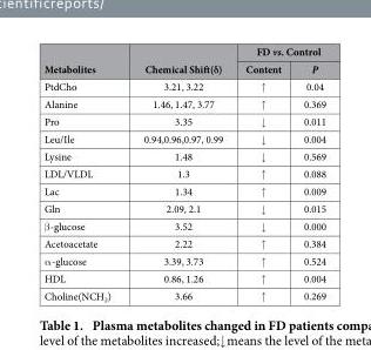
<table><thead><tr><td rowspan="2">Metabolites</td><td rowspan="2">Chemical Shift(δ)</td><td colspan="2">FD vs. Control</td></tr><tr><td>Content</td><td>P</td></tr></thead><tbody><tr><td>PtdCho</td><td>3.21, 3.22</td><td>↑</td><td>0.04</td></tr><tr><td>Alanine</td><td>1.46, 1.47, 3.77</td><td>↑</td><td>0.369</td></tr><tr><td>Pro</td><td>3.35</td><td>↓</td><td>0.011</td></tr><tr><td>Leu/Ile</td><td>0.94,0.96,0.97, 0.99</td><td>↓</td><td>0.004</td></tr><tr><td>Lysine</td><td>1.48</td><td>↓</td><td>0.569</td></tr><tr><td>LDL/VLDL</td><td>1.3</td><td>↑</td><td>0.088</td></tr><tr><td>Lac</td><td>1.34</td><td>↑</td><td>0.009</td></tr><tr><td>Gln</td><td>2.09, 2.1</td><td>↓</td><td>0.015</td></tr><tr><td>β -glucose</td><td>3.52</td><td>↓</td><td>0.000</td></tr><tr><td>Acetoacetate</td><td>2.22</td><td>↑</td><td>0.384</td></tr><tr><td>α -glucose</td><td>3.39, 3.73</td><td>↑</td><td>0.524</td></tr><tr><td>HDL</td><td>0.86, 1.26</td><td>↑</td><td>0.004</td></tr><tr><td>Choline(NCH<sub>2</sub>)</td><td>3.66</td><td>↑</td><td>0.269</td></tr></tbody></table>